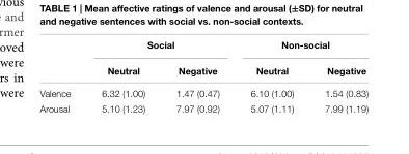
<table><thead><tr><td rowspan="2"></td><td colspan="2">Social</td><td colspan="2">Non-social</td></tr><tr><td>Neutral</td><td>Negative</td><td>Neutral</td><td>Negative</td></tr></thead><tbody><tr><td>Valence</td><td>6.32 (1.00)</td><td>1.47 (0.47)</td><td>6.10 (1.00)</td><td>1.54 (0.83)</td></tr><tr><td>Arousal</td><td>5.10 (1.23)</td><td>7.97 (0.92)</td><td>5.07 (1.11)</td><td>7.99 (1.19)</td></tr></tbody></table>